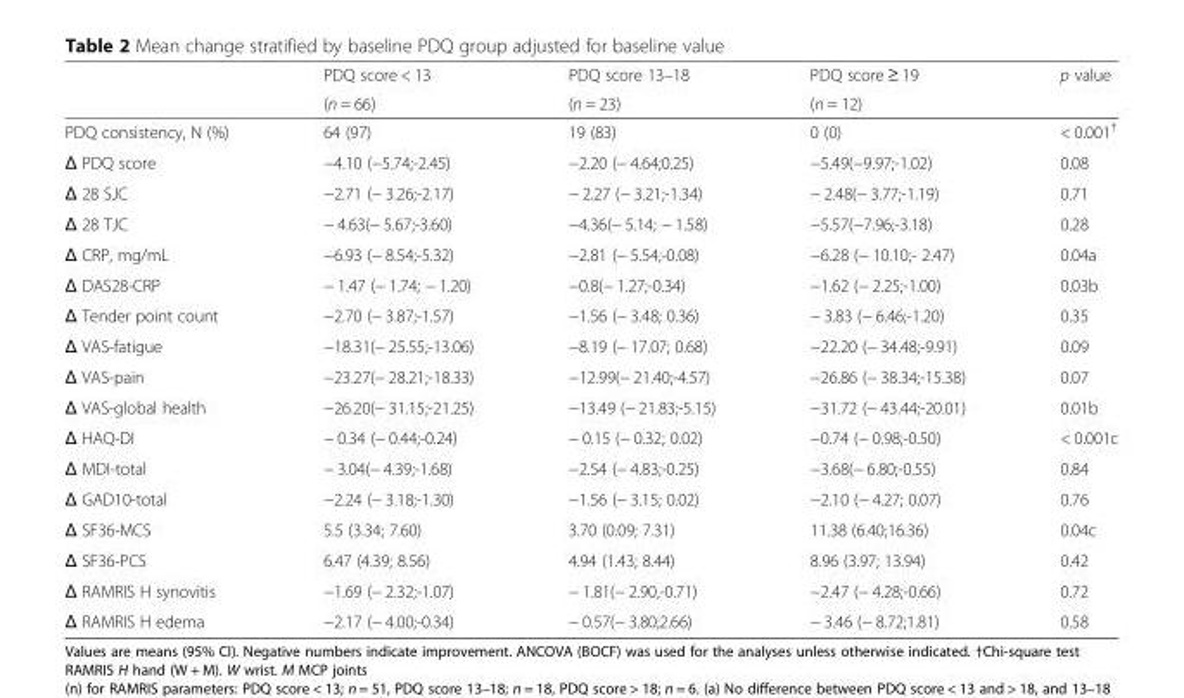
<table><thead><tr><td rowspan="2"></td><td rowspan="2">PDQ score &lt; 13 (n = 66)</td><td rowspan="2">PDQ score 13–18 (n = 23)</td><td rowspan="2">PDQ score ≥ 19 (n = 12)</td><td rowspan="2">p value</td></tr><tr></tr></thead><tbody><tr><td>PDQ consistency, N (%)</td><td>64 (97)</td><td>19 (83)</td><td>0 (0)</td><td>&lt; 0.001<sup>†</sup></td></tr><tr><td>Δ PDQ score</td><td>−4.10 (−5.74;-2.45)</td><td>−2.20 (− 4.64;0.25)</td><td>−5.49(−9.97;-1.02)</td><td>0.08</td></tr><tr><td>Δ 28 SJC</td><td>−2.71 (− 3.26;-2.17)</td><td>− 2.27 (− 3.21;-1.34)</td><td>− 2.48(− 3.77;-1.19)</td><td>0.71</td></tr><tr><td>Δ 28 TJC</td><td>− 4.63(− 5.67;-3.60)</td><td>−4.36(− 5.14; − 1.58)</td><td>−5.57(−7.96;-3.18)</td><td>0.28</td></tr><tr><td>Δ CRP, mg/mL</td><td>−6.93 (− 8.54;-5.32)</td><td>−2.81 (− 5.54;-0.08)</td><td>−6.28 (− 10.10;- 2.47)</td><td>0.04a</td></tr><tr><td>Δ DAS28-CRP</td><td>− 1.47 (− 1.74; − 1.20)</td><td>−0.8(− 1.27;-0.34)</td><td>−1.62 (− 2.25;-1.00)</td><td>0.03b</td></tr><tr><td>Δ Tender point count</td><td>−2.70 (− 3.87;-1.57)</td><td>−1.56 (− 3.48; 0.36)</td><td>− 3.83 (− 6.46;-1.20)</td><td>0.35</td></tr><tr><td>Δ VAS-fatigue</td><td>−18.31(− 25.55;-13.06)</td><td>−8.19 (− 17.07; 0.68)</td><td>−22.20 (− 34.48;-9.91)</td><td>0.09</td></tr><tr><td>Δ VAS-pain</td><td>−23.27(− 28.21;-18.33)</td><td>−12.99(− 21.40;-4.57)</td><td>−26.86 (− 38.34;-15.38)</td><td>0.07</td></tr><tr><td>Δ VAS-global health</td><td>−26.20(− 31.15;-21.25)</td><td>−13.49 (− 21.83;-5.15)</td><td>−31.72 (− 43.44;-20.01)</td><td>0.01b</td></tr><tr><td>Δ HAQ-DI</td><td>− 0.34 (− 0.44;-0.24)</td><td>− 0.15 (− 0.32; 0.02)</td><td>−0.74 (− 0.98;-0.50)</td><td>&lt; 0.001c</td></tr><tr><td>Δ MDI-total</td><td>− 3.04(− 4.39;-1.68)</td><td>−2.54 (− 4.83;-0.25)</td><td>−3.68(− 6.80;-0.55)</td><td>0.84</td></tr><tr><td>Δ GAD10-total</td><td>−2.24 (− 3.18;-1.30)</td><td>−1.56 (− 3.15; 0.02)</td><td>−2.10 (− 4.27; 0.07)</td><td>0.76</td></tr><tr><td>Δ SF36-MCS</td><td>5.5 (3.34; 7.60)</td><td>3.70 (0.09; 7.31)</td><td>11.38 (6.40;16.36)</td><td>0.04c</td></tr><tr><td>Δ SF36-PCS</td><td>6.47 (4.39; 8.56)</td><td>4.94 (1.43; 8.44)</td><td>8.96 (3.97; 13.94)</td><td>0.42</td></tr><tr><td>Δ RAMRIS H synovitis</td><td>−1.69 (− 2.32;-1.07)</td><td>− 1.81(− 2.90,-0.71)</td><td>−2.47 (− 4.28;-0.66)</td><td>0.72</td></tr><tr><td>Δ RAMRIS H edema</td><td>−2.17 (− 4.00;-0.34)</td><td>− 0.57(− 3.80;2.66)</td><td>− 3.46 (− 8.72;1.81)</td><td>0.58</td></tr></tbody></table>